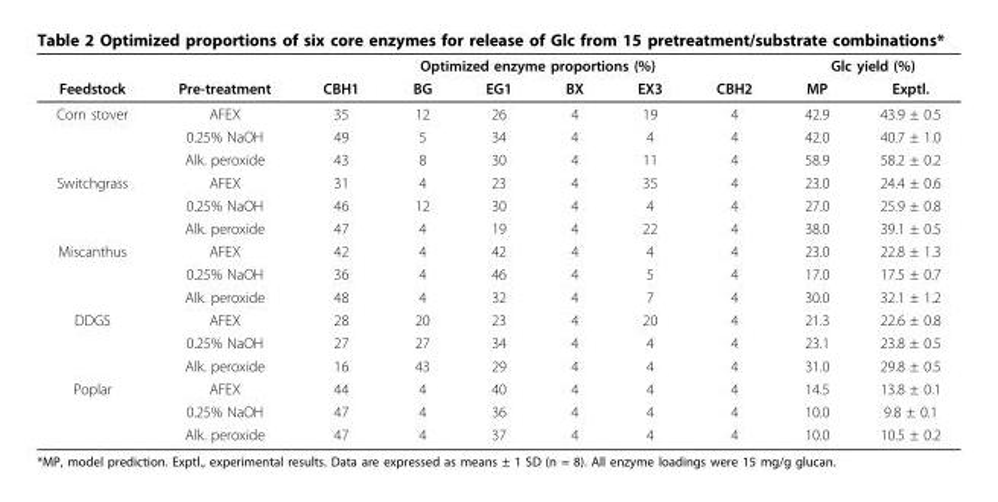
<table><thead><tr><td rowspan="2">Feedstock</td><td rowspan="2">Pre-treatment</td><td colspan="6">Optimized enzyme proportions (%)</td><td colspan="2">Glc yield (%)</td></tr><tr><td>CBH1</td><td>BG</td><td>EG1</td><td>BX</td><td>EX3</td><td>CBH2</td><td>MP</td><td>Exptl.</td></tr></thead><tbody><tr><td rowspan="3">Corn stover</td><td>AFEX</td><td>35</td><td>12</td><td>26</td><td>4</td><td>19</td><td>4</td><td>42.9</td><td>43.9 ± 0.5</td></tr><tr><td>0.25% NaOH</td><td>49</td><td>5</td><td>34</td><td>4</td><td>4</td><td>4</td><td>42.0</td><td>40.7 ± 1.0</td></tr><tr><td>Alk. peroxide</td><td>43</td><td>8</td><td>30</td><td>4</td><td>11</td><td>4</td><td>58.9</td><td>58.2 ± 0.2</td></tr><tr><td rowspan="3">Switchgrass</td><td>AFEX</td><td>31</td><td>4</td><td>23</td><td>4</td><td>35</td><td>4</td><td>23.0</td><td>24.4 ± 0.6</td></tr><tr><td>0.25% NaOH</td><td>46</td><td>12</td><td>30</td><td>4</td><td>4</td><td>4</td><td>27.0</td><td>25.9 ± 0.8</td></tr><tr><td>Alk. peroxide</td><td>47</td><td>4</td><td>19</td><td>4</td><td>22</td><td>4</td><td>38.0</td><td>39.1 ± 0.5</td></tr><tr><td rowspan="3">Miscanthus</td><td>AFEX</td><td>42</td><td>4</td><td>42</td><td>4</td><td>4</td><td>4</td><td>23.0</td><td>22.8 ± 1.3</td></tr><tr><td>0.25% NaOH</td><td>36</td><td>4</td><td>46</td><td>4</td><td>5</td><td>4</td><td>17.0</td><td>17.5 ± 0.7</td></tr><tr><td>Alk. peroxide</td><td>48</td><td>4</td><td>32</td><td>4</td><td>7</td><td>4</td><td>30.0</td><td>32.1 ± 1.2</td></tr><tr><td rowspan="3">DDGS</td><td>AFEX</td><td>28</td><td>20</td><td>23</td><td>4</td><td>20</td><td>4</td><td>21.3</td><td>22.6 ± 0.8</td></tr><tr><td>0.25% NaOH</td><td>27</td><td>27</td><td>34</td><td>4</td><td>4</td><td>4</td><td>23.1</td><td>23.8 ± 0.5</td></tr><tr><td>Alk. peroxide</td><td>16</td><td>43</td><td>29</td><td>4</td><td>4</td><td>4</td><td>31.0</td><td>29.8 ± 0.5</td></tr><tr><td rowspan="3">Poplar</td><td>AFEX</td><td>44</td><td>4</td><td>40</td><td>4</td><td>4</td><td>4</td><td>14.5</td><td>13.8 ± 0.1</td></tr><tr><td>0.25% NaOH</td><td>47</td><td>4</td><td>36</td><td>4</td><td>4</td><td>4</td><td>10.0</td><td>9.8 ± 0.1</td></tr><tr><td>Alk. peroxide</td><td>47</td><td>4</td><td>37</td><td>4</td><td>4</td><td>4</td><td>10.0</td><td>10.5 ± 0.2</td></tr></tbody></table>